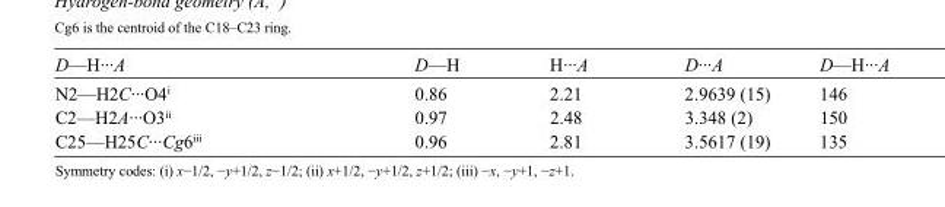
<table><tbody><tr><td>D—H···A</td><td>D—H</td><td>H···A</td><td>D···A</td><td>D—H···A</td></tr><tr><td>N2—H2C···O4<sup>i</sup></td><td>0.86</td><td>2.21</td><td>2.9639 (15)</td><td>146</td></tr><tr><td>C2—H2A···O3<sup>ii</sup></td><td>0.97</td><td>2.48</td><td>3.348 (2)</td><td>150</td></tr><tr><td>C25—H25C···Cg6<sup>iii</sup></td><td>0.96</td><td>2.81</td><td>3.5617 (19)</td><td>135</td></tr></tbody></table>